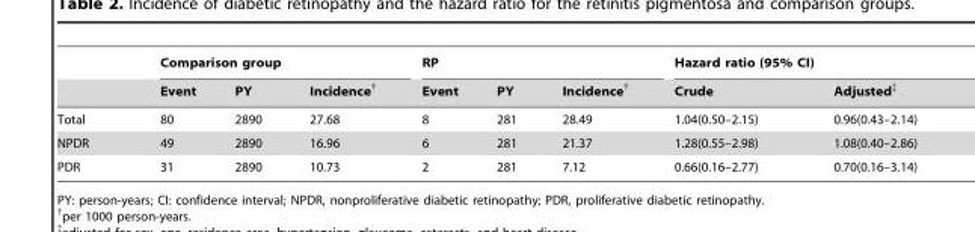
<table><thead><tr><td rowspan="2"></td><td colspan="3">Comparison group</td><td colspan="3">RP</td><td colspan="2">Hazard ratio (95% CI)</td></tr><tr><td>Event</td><td>PY</td><td>Incidence†</td><td>Event</td><td>PY</td><td>Incidence†</td><td>Crude</td><td>Adjusted‡</td></tr></thead><tbody><tr><td>Total</td><td>80</td><td>2890</td><td>27.68</td><td>8</td><td>281</td><td>28.49</td><td>1.04(0.50–2.15)</td><td>0.96(0.43–2.14)</td></tr><tr><td>NPDR</td><td>49</td><td>2890</td><td>16.96</td><td>6</td><td>281</td><td>21.37</td><td>1.28(0.55–2.98)</td><td>1.08(0.40–2.86)</td></tr><tr><td>PDR</td><td>31</td><td>2890</td><td>10.73</td><td>2</td><td>281</td><td>7.12</td><td>0.66(0.16–2.77)</td><td>0.70(0.16–3.14)</td></tr></tbody></table>